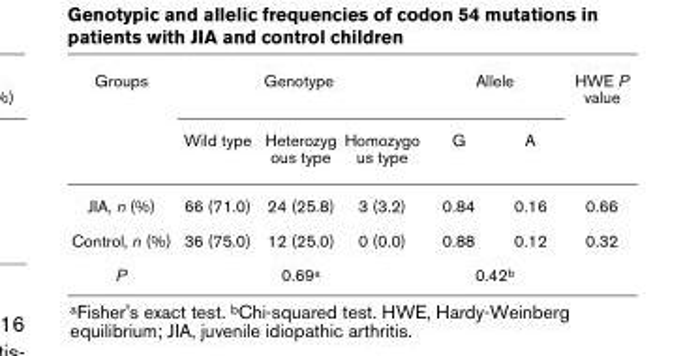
<table><thead><tr><td rowspan="2">Groups</td><td colspan="3">Genotype</td><td colspan="2">Allele</td><td rowspan="2">HWE P value</td></tr><tr><td>Wild type</td><td>Heterozyg ous type</td><td>Homozygo us type</td><td>G</td><td>A</td></tr></thead><tbody><tr><td>JIA, n (%)</td><td>66 (71.0)</td><td>24 (25.8)</td><td>3 (3.2)</td><td>0.84</td><td>0.16</td><td>0.66</td></tr><tr><td>Control, n (%)</td><td>36 (75.0)</td><td>12 (25.0)</td><td>0 (0.0)</td><td>0.88</td><td>0.12</td><td>0.32</td></tr><tr><td>P</td><td></td><td>0.69a</td><td></td><td colspan="2">0.42b</td><td></td></tr></tbody></table>